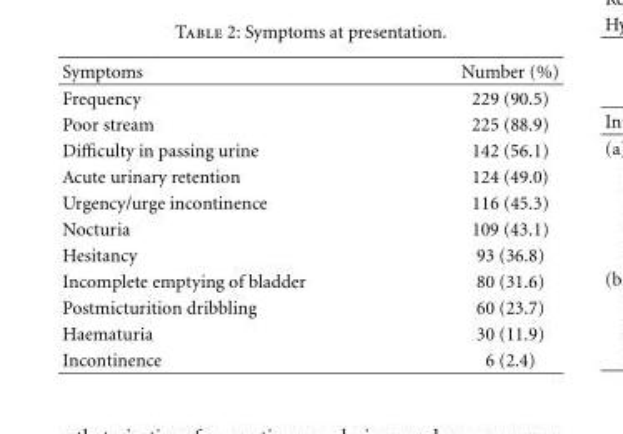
<table><thead><tr><td>Symptoms</td><td>Number (%)</td></tr></thead><tbody><tr><td>Frequency</td><td>229 (90.5)</td></tr><tr><td>Poor stream</td><td>225 (88.9)</td></tr><tr><td>Difficulty in passing urine</td><td>142 (56.1)</td></tr><tr><td>Acute urinary retention</td><td>124 (49.0)</td></tr><tr><td>Urgency/urge incontinence</td><td>116 (45.3)</td></tr><tr><td>Nocturia</td><td>109 (43.1)</td></tr><tr><td>Hesitancy</td><td>93 (36.8)</td></tr><tr><td>Incomplete emptying of bladder</td><td>80 (31.6)</td></tr><tr><td>Postmicturition dribbling</td><td>60 (23.7)</td></tr><tr><td>Haematuria</td><td>30 (11.9)</td></tr><tr><td>Incontinence</td><td>6 (2.4)</td></tr></tbody></table>